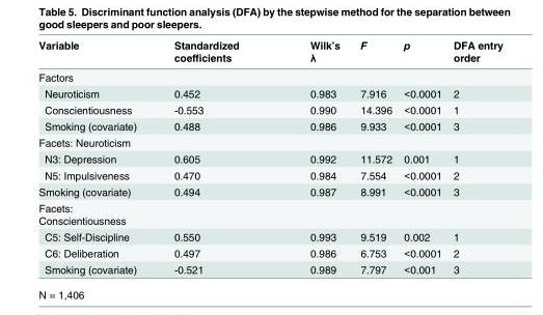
<table><thead><tr><td>Variable</td><td>Standardized coefficients</td><td>Wilk’s λ</td><td>F</td><td>p</td><td>DFA entry order</td></tr></thead><tbody><tr><td colspan="6">Factors</td></tr><tr><td>Neuroticism</td><td>0.452</td><td>0.983</td><td>7.916</td><td>&lt;0.0001</td><td>2</td></tr><tr><td>Conscientiousness</td><td>-0.553</td><td>0.990</td><td>14.396</td><td>&lt;0.0001</td><td>1</td></tr><tr><td>Smoking (covariate)</td><td>0.488</td><td>0.986</td><td>9.933</td><td>&lt;0.0001</td><td>3</td></tr><tr><td colspan="6">Facets: Neuroticism</td></tr><tr><td>N3: Depression</td><td>0.605</td><td>0.992</td><td>11.572</td><td>0.001</td><td>1</td></tr><tr><td>N5: Impulsiveness</td><td>0.470</td><td>0.984</td><td>7.554</td><td>&lt;0.0001</td><td>2</td></tr><tr><td>Smoking (covariate)</td><td>0.494</td><td>0.987</td><td>8.991</td><td>&lt;0.0001</td><td>3</td></tr><tr><td colspan="6">Facets: Conscientiousness</td></tr><tr><td>C5: Self-Discipline</td><td>0.550</td><td>0.993</td><td>9.519</td><td>0.002</td><td>1</td></tr><tr><td>C6: Deliberation</td><td>0.497</td><td>0.986</td><td>6.753</td><td>&lt;0.0001</td><td>2</td></tr><tr><td>Smoking (covariate)</td><td>-0.521</td><td>0.989</td><td>7.797</td><td>&lt;0.001</td><td>3</td></tr></tbody></table>